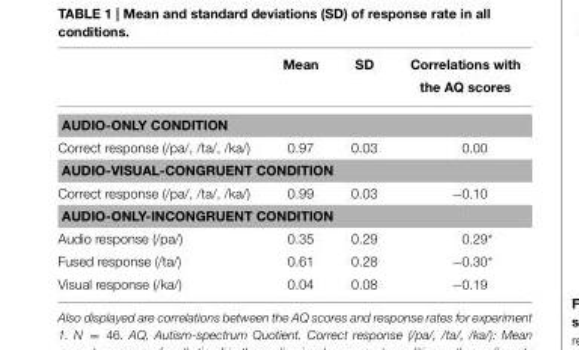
<table><thead><tr><td></td><td>Mean</td><td>SD</td><td>Correlations with the AQ scores</td></tr></thead><tbody><tr><td colspan="4">AUDIO-ONLY CONDITION</td></tr><tr><td>Correct response (/pa/, /ta/, /ka/)</td><td>0.97</td><td>0.03</td><td>0.00</td></tr><tr><td colspan="4">AUDIO-VISUAL-CONGRUENT CONDITION</td></tr><tr><td>Correct response (/pa/, /ta/, /ka/)</td><td>0.99</td><td>0.03</td><td>−0.10</td></tr><tr><td colspan="4">AUDIO-ONLY-INCONGRUENT CONDITION</td></tr><tr><td>Audio response (/pa/)</td><td>0.35</td><td>0.29</td><td>0.29*</td></tr><tr><td>Fused response (/ta/)</td><td>0.61</td><td>0.28</td><td>−0.30*</td></tr><tr><td>Visual response (/ka/)</td><td>0.04</td><td>0.08</td><td>−0.19</td></tr></tbody></table>